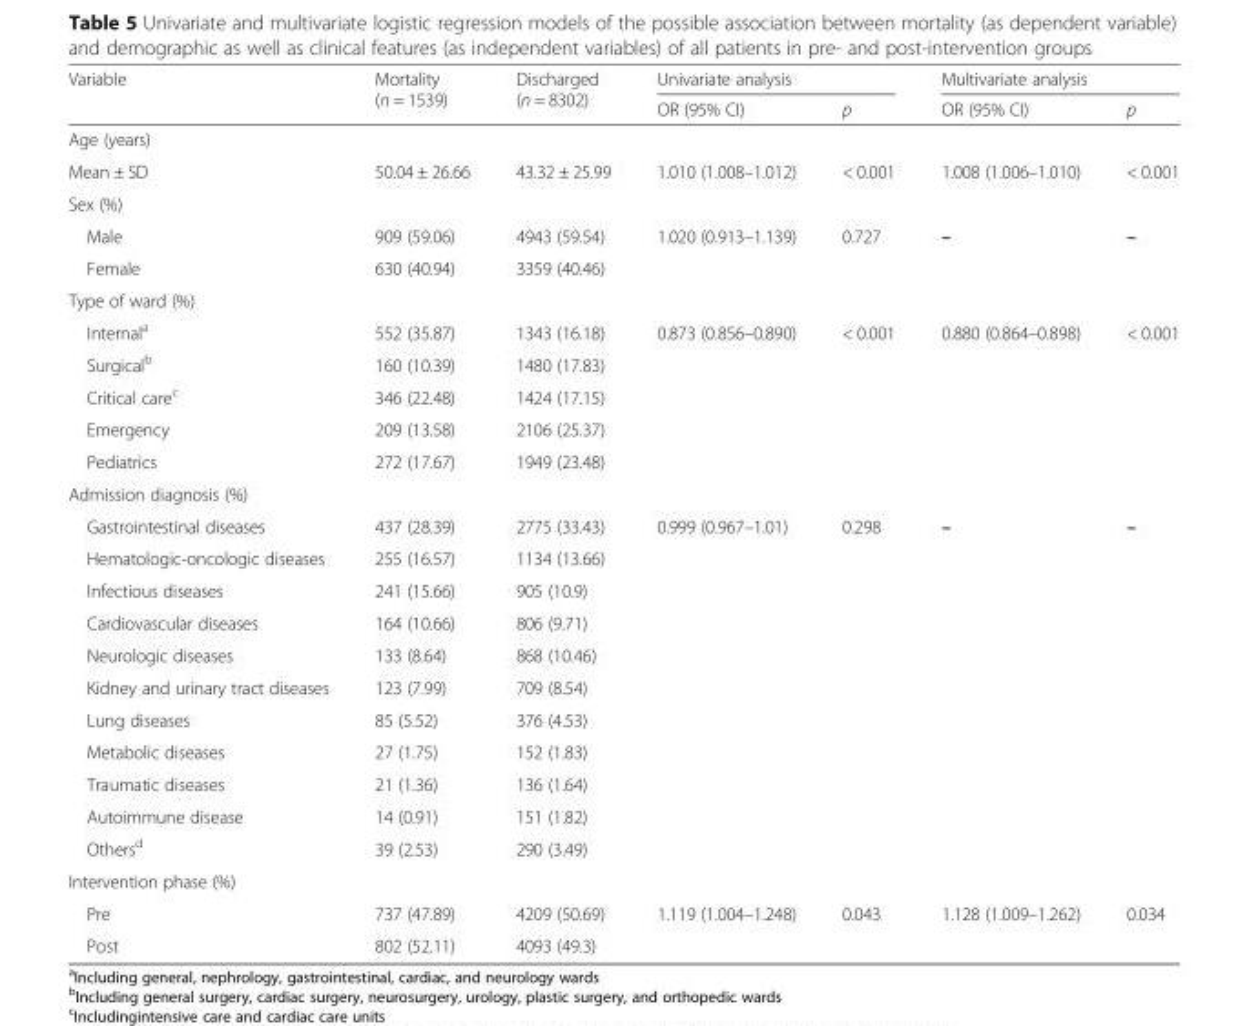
<table><thead><tr><td rowspan="2">Variable</td><td rowspan="2">Mortality (n = 1539)</td><td rowspan="2">Discharged (n = 8302)</td><td colspan="2">Univariate analysis</td><td colspan="2">Multivariate analysis</td></tr><tr><td>OR (95% CI)</td><td>p</td><td>OR (95% CI)</td><td>p</td></tr></thead><tbody><tr><td colspan="7">Age (years)</td></tr><tr><td>Mean ± SD</td><td>50.04 ± 26.66</td><td>43.32 ± 25.99</td><td>1.010 (1.008–1.012)</td><td>&lt; 0.001</td><td>1.008 (1.006–1.010)</td><td>&lt; 0.001</td></tr><tr><td colspan="7">Sex (%)</td></tr><tr><td>Male</td><td>909 (59.06)</td><td>4943 (59.54)</td><td rowspan="2">1.020 (0.913–1.139)</td><td rowspan="2">0.727</td><td rowspan="2">–</td><td rowspan="2">–</td></tr><tr><td>Female</td><td>630 (40.94)</td><td>3359 (40.46)</td></tr><tr><td colspan="7">Type of ward (%)</td></tr><tr><td>Internal<sup>a</sup></td><td>552 (35.87)</td><td>1343 (16.18)</td><td rowspan="5">0.873 (0.856–0.890)</td><td rowspan="5">&lt; 0.001</td><td rowspan="5">0.880 (0.864–0.898)</td><td rowspan="5">&lt; 0.001</td></tr><tr><td>Surgical<sup>b</sup></td><td>160 (10.39)</td><td>1480 (17.83)</td></tr><tr><td>Critical care<sup>c</sup></td><td>346 (22.48)</td><td>1424 (17.15)</td></tr><tr><td>Emergency</td><td>209 (13.58)</td><td>2106 (25.37)</td></tr><tr><td>Pediatrics</td><td>272 (17.67)</td><td>1949 (23.48)</td></tr><tr><td colspan="7">Admission diagnosis (%)</td></tr><tr><td>Gastrointestinal diseases</td><td>437 (28.39)</td><td>2775 (33.43)</td><td rowspan="11">0.999 (0.967–1.01)</td><td rowspan="11">0.298</td><td rowspan="11">–</td><td rowspan="11">–</td></tr><tr><td>Hematologic-oncologic diseases</td><td>255 (16.57)</td><td>1134 (13.66)</td></tr><tr><td>Infectious diseases</td><td>241 (15.66)</td><td>905 (10.9)</td></tr><tr><td>Cardiovascular diseases</td><td>164 (10.66)</td><td>806 (9.71)</td></tr><tr><td>Neurologic diseases</td><td>133 (8.64)</td><td>868 (10.46)</td></tr><tr><td>Kidney and urinary tract diseases</td><td>123 (7.99)</td><td>709 (8.54)</td></tr><tr><td>Lung diseases</td><td>85 (5.52)</td><td>376 (4.53)</td></tr><tr><td>Metabolic diseases</td><td>27 (1.75)</td><td>152 (1.83)</td></tr><tr><td>Traumatic diseases</td><td>21 (1.36)</td><td>136 (1.64)</td></tr><tr><td>Autoimmune disease</td><td>14 (0.91)</td><td>151 (1.82)</td></tr><tr><td>Others<sup>d</sup></td><td>39 (2.53)</td><td>290 (3.49)</td></tr><tr><td colspan="7">Intervention phase (%)</td></tr><tr><td>Pre</td><td>737 (47.89)</td><td>4209 (50.69)</td><td rowspan="2">1.119 (1.004–1.248)</td><td rowspan="2">0.043</td><td rowspan="2">1.128 (1.009–1.262)</td><td rowspan="2">0.034</td></tr><tr><td>Post</td><td>802 (52.11)</td><td>4093 (49.3)</td></tr></tbody></table>